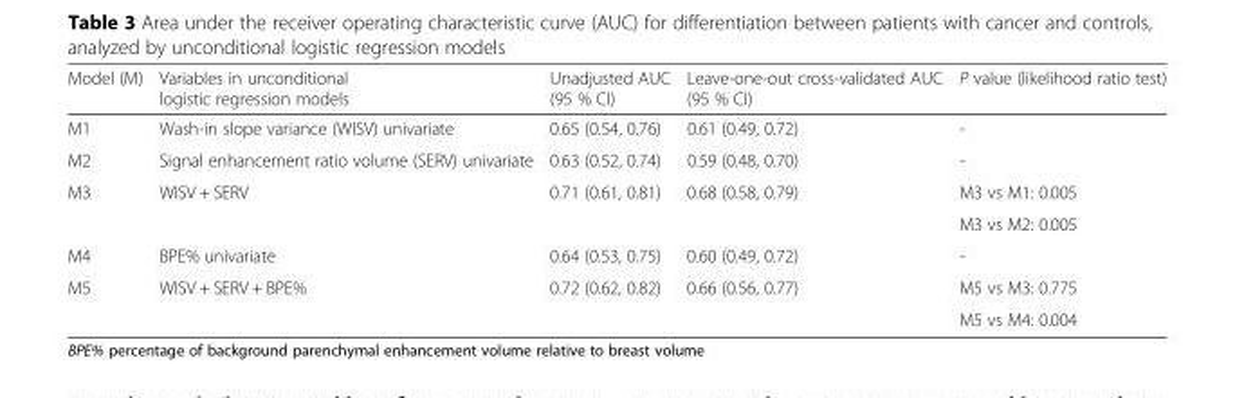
<table><thead><tr><td>Model (M)</td><td>Variables in unconditional logistic regression models</td><td>Unadjusted AUC (95 % CI)</td><td>Leave-one-out cross-validated AUC (95 % CI)</td><td>P value (likelihood ratio test)</td></tr></thead><tbody><tr><td>M1</td><td>Wash-in slope variance (WISV) univariate</td><td>0.65 (0.54, 0.76)</td><td>0.61 (0.49, 0.72)</td><td>-</td></tr><tr><td>M2</td><td>Signal enhancement ratio volume (SERV) univariate</td><td>0.63 (0.52, 0.74)</td><td>0.59 (0.48, 0.70)</td><td>-</td></tr><tr><td rowspan="2">M3</td><td rowspan="2">WISV + SERV</td><td rowspan="2">0.71 (0.61, 0.81)</td><td rowspan="2">0.68 (0.58, 0.79)</td><td>M3 vs M1: 0.005</td></tr><tr><td>M3 vs M2: 0.005</td></tr><tr><td>M4</td><td>BPE% univariate</td><td>0.64 (0.53, 0.75)</td><td>0.60 (0.49, 0.72)</td><td>-</td></tr><tr><td rowspan="2">M5</td><td rowspan="2">WISV + SERV + BPE%</td><td rowspan="2">0.72 (0.62, 0.82)</td><td rowspan="2">0.66 (0.56, 0.77)</td><td>M5 vs M3: 0.775</td></tr><tr><td>M5 vs M4: 0.004</td></tr></tbody></table>